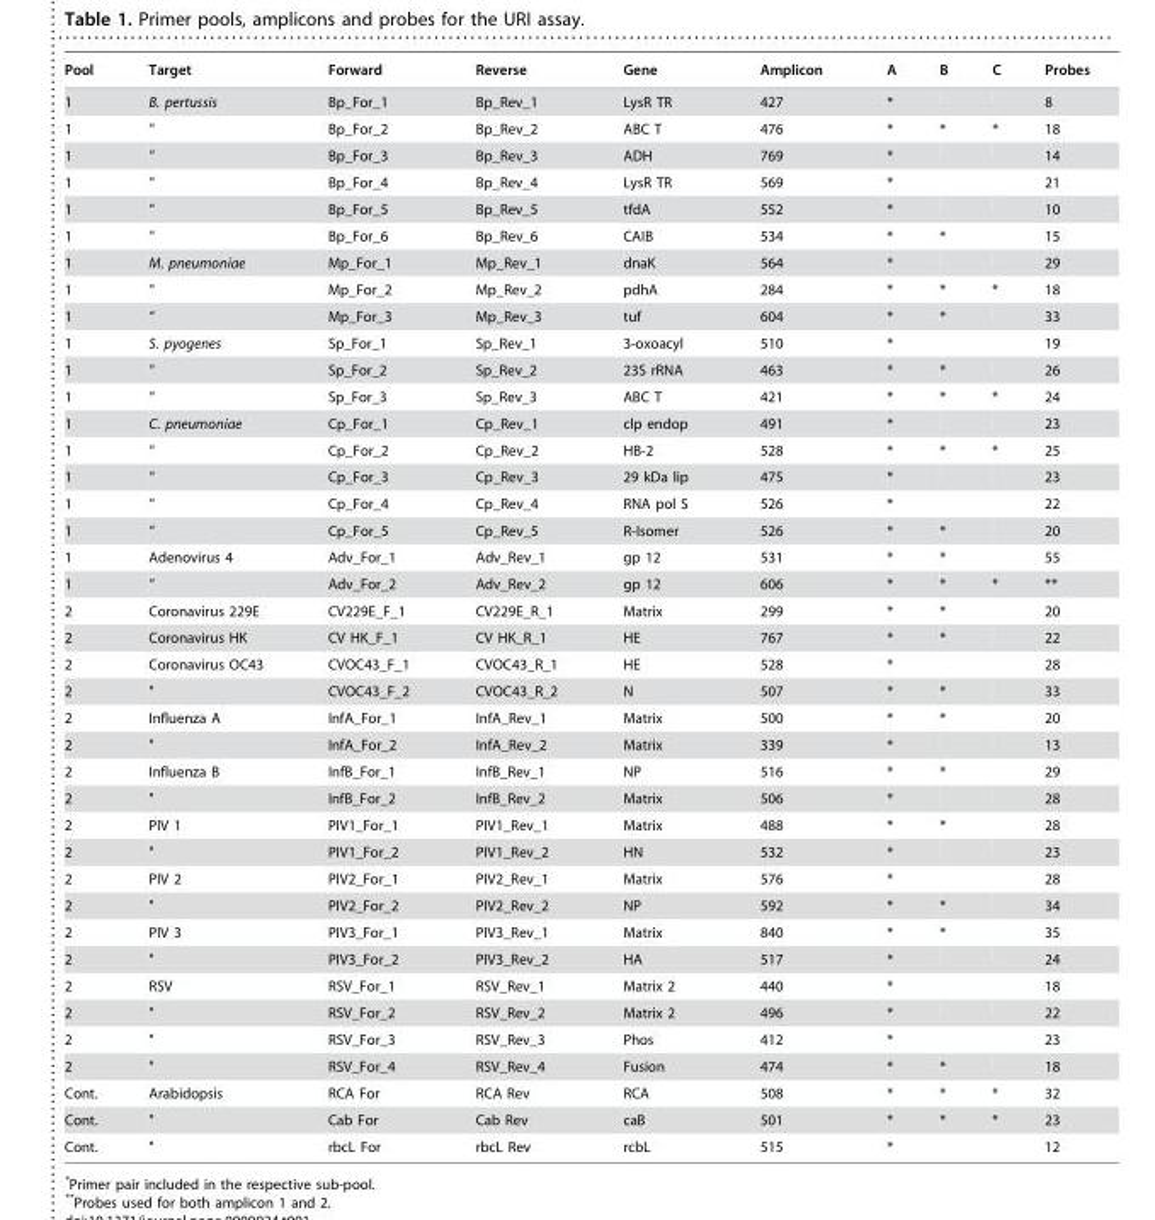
<table><thead><tr><td>Pool</td><td>Target</td><td>Forward</td><td>Reverse</td><td>Gene</td><td>Amplicon</td><td>A</td><td>B</td><td>C</td><td>Probes</td></tr></thead><tbody><tr><td>1</td><td>B. pertussis</td><td>Bp_For_1</td><td>Bp_Rev_1</td><td>LysR TR</td><td>427</td><td>*</td><td></td><td></td><td>8</td></tr><tr><td>1</td><td>&quot;</td><td>Bp_For_2</td><td>Bp_Rev_2</td><td>ABC T</td><td>476</td><td>*</td><td>*</td><td>*</td><td>18</td></tr><tr><td>1</td><td>&quot;</td><td>Bp_For_3</td><td>Bp_Rev_3</td><td>ADH</td><td>769</td><td>*</td><td></td><td></td><td>14</td></tr><tr><td>1</td><td>&quot;</td><td>Bp_For_4</td><td>Bp_Rev_4</td><td>LysR TR</td><td>569</td><td>*</td><td></td><td></td><td>21</td></tr><tr><td>1</td><td>&quot;</td><td>Bp_For_5</td><td>Bp_Rev_5</td><td>tfdA</td><td>552</td><td>*</td><td></td><td></td><td>10</td></tr><tr><td>1</td><td>&quot;</td><td>Bp_For_6</td><td>Bp_Rev_6</td><td>CAIB</td><td>534</td><td>*</td><td>*</td><td></td><td>15</td></tr><tr><td>1</td><td>M. pneumoniae</td><td>Mp_For_1</td><td>Mp_Rev_1</td><td>dnaK</td><td>564</td><td>*</td><td></td><td></td><td>29</td></tr><tr><td>1</td><td>&quot;</td><td>Mp_For_2</td><td>Mp_Rev_2</td><td>pdhA</td><td>284</td><td>*</td><td>*</td><td>*</td><td>18</td></tr><tr><td>1</td><td>&quot;</td><td>Mp_For_3</td><td>Mp_Rev_3</td><td>tuf</td><td>604</td><td>*</td><td>*</td><td></td><td>33</td></tr><tr><td>1</td><td>S. pyogenes</td><td>Sp_For_1</td><td>Sp_Rev_1</td><td>3-oxoacyl</td><td>510</td><td>*</td><td></td><td></td><td>19</td></tr><tr><td>1</td><td>&quot;</td><td>Sp_For_2</td><td>Sp_Rev_2</td><td>23S rRNA</td><td>463</td><td>*</td><td>*</td><td></td><td>26</td></tr><tr><td>1</td><td>&quot;</td><td>Sp_For_3</td><td>Sp_Rev_3</td><td>ABC T</td><td>421</td><td>*</td><td>*</td><td>*</td><td>24</td></tr><tr><td>1</td><td>C. pneumoniae</td><td>Cp_For_1</td><td>Cp_Rev_1</td><td>clp endop</td><td>491</td><td>*</td><td></td><td></td><td>23</td></tr><tr><td>1</td><td>&quot;</td><td>Cp_For_2</td><td>Cp_Rev_2</td><td>HB-2</td><td>528</td><td>*</td><td>*</td><td>*</td><td>25</td></tr><tr><td>1</td><td>&quot;</td><td>Cp_For_3</td><td>Cp_Rev_3</td><td>29 kDa lip</td><td>475</td><td>*</td><td></td><td></td><td>23</td></tr><tr><td>1</td><td>&quot;</td><td>Cp_For_4</td><td>Cp_Rev_4</td><td>RNA pol S</td><td>526</td><td>*</td><td></td><td></td><td>22</td></tr><tr><td>1</td><td>&quot;</td><td>Cp_For_5</td><td>Cp_Rev_5</td><td>R-Isomer</td><td>526</td><td>*</td><td>*</td><td></td><td>20</td></tr><tr><td>1</td><td>Adenovirus 4</td><td>Adv_For_1</td><td>Adv_Rev_1</td><td>gp 12</td><td>531</td><td>*</td><td>*</td><td></td><td>55</td></tr><tr><td>1</td><td>&quot;</td><td>Adv_For_2</td><td>Adv_Rev_2</td><td>gp 12</td><td>606</td><td>*</td><td>*</td><td>*</td><td>**</td></tr><tr><td>2</td><td>Coronavirus 229E</td><td>CV229E_F_1</td><td>CV229E_R_1</td><td>Matrix</td><td>299</td><td>*</td><td>*</td><td></td><td>20</td></tr><tr><td>2</td><td>Coronavirus HK</td><td>CV HK_F_1</td><td>CV HK_R_1</td><td>HE</td><td>767</td><td>*</td><td>*</td><td></td><td>22</td></tr><tr><td>2</td><td>Coronavirus OC43</td><td>CVOC43_F_1</td><td>CVOC43_R_1</td><td>HE</td><td>528</td><td>*</td><td></td><td></td><td>28</td></tr><tr><td>2</td><td>&quot;</td><td>CVOC43_F_2</td><td>CVOC43_R_2</td><td>N</td><td>507</td><td>*</td><td>*</td><td></td><td>33</td></tr><tr><td>2</td><td>Influenza A</td><td>InfA_For_1</td><td>InfA_Rev_1</td><td>Matrix</td><td>500</td><td>*</td><td>*</td><td></td><td>20</td></tr><tr><td>2</td><td>&quot;</td><td>InfA_For_2</td><td>InfA_Rev_2</td><td>Matrix</td><td>339</td><td>*</td><td></td><td></td><td>13</td></tr><tr><td>2</td><td>Influenza B</td><td>InfB_For_1</td><td>InfB_Rev_1</td><td>NP</td><td>516</td><td>*</td><td>*</td><td></td><td>29</td></tr><tr><td>2</td><td>&quot;</td><td>InfB_For_2</td><td>InfB_Rev_2</td><td>Matrix</td><td>506</td><td>*</td><td></td><td></td><td>28</td></tr><tr><td>2</td><td>PIV 1</td><td>PIV1_For_1</td><td>PIV1_Rev_1</td><td>Matrix</td><td>488</td><td>*</td><td>*</td><td></td><td>28</td></tr><tr><td>2</td><td>&quot;</td><td>PIV1_For_2</td><td>PIV1_Rev_2</td><td>HN</td><td>532</td><td>*</td><td></td><td></td><td>23</td></tr><tr><td>2</td><td>PIV 2</td><td>PIV2_For_1</td><td>PIV2_Rev_1</td><td>Matrix</td><td>576</td><td>*</td><td></td><td></td><td>28</td></tr><tr><td>2</td><td>&quot;</td><td>PIV2_For_2</td><td>PIV2_Rev_2</td><td>NP</td><td>592</td><td>*</td><td>*</td><td></td><td>34</td></tr><tr><td>2</td><td>PIV 3</td><td>PIV3_For_1</td><td>PIV3_Rev_1</td><td>Matrix</td><td>840</td><td>*</td><td>*</td><td></td><td>35</td></tr><tr><td>2</td><td>&quot;</td><td>PIV3_For_2</td><td>PIV3_Rev_2</td><td>HA</td><td>517</td><td>*</td><td></td><td></td><td>24</td></tr><tr><td>2</td><td>RSV</td><td>RSV_For_1</td><td>RSV_Rev_1</td><td>Matrix 2</td><td>440</td><td>*</td><td></td><td></td><td>18</td></tr><tr><td>2</td><td>&quot;</td><td>RSV_For_2</td><td>RSV_Rev_2</td><td>Matrix 2</td><td>496</td><td>*</td><td></td><td></td><td>22</td></tr><tr><td>2</td><td>&quot;</td><td>RSV_For_3</td><td>RSV_Rev_3</td><td>Phos</td><td>412</td><td>*</td><td></td><td></td><td>23</td></tr><tr><td>2</td><td>&quot;</td><td>RSV_For_4</td><td>RSV_Rev_4</td><td>Fusion</td><td>474</td><td>*</td><td>*</td><td></td><td>18</td></tr><tr><td>Cont.</td><td>Arabidopsis</td><td>RCA For</td><td>RCA Rev</td><td>RCA</td><td>508</td><td>*</td><td>*</td><td>*</td><td>32</td></tr><tr><td>Cont.</td><td>&quot;</td><td>Cab For</td><td>Cab Rev</td><td>caB</td><td>501</td><td>*</td><td>*</td><td>*</td><td>23</td></tr><tr><td>Cont.</td><td>&quot;</td><td>rbcL For</td><td>rbcL Rev</td><td>rcbL</td><td>515</td><td>*</td><td></td><td></td><td>12</td></tr></tbody></table>